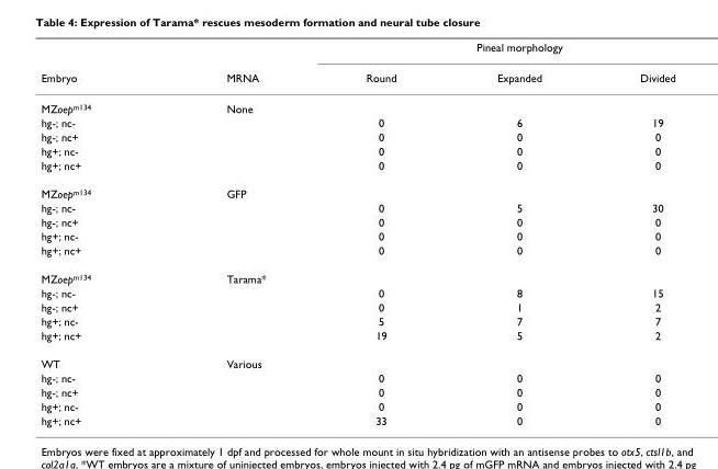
<table><thead><tr><td rowspan="2">Embryo</td><td rowspan="2">MRNA</td><td colspan="3">Pineal morphology</td></tr><tr><td>Round</td><td>Expanded</td><td>Divided</td></tr></thead><tbody><tr><td>MZoep<sup>m134</sup></td><td>None</td><td></td><td></td><td></td></tr><tr><td>hg-; nc-</td><td></td><td>0</td><td>6</td><td>19</td></tr><tr><td>hg-; nc+</td><td></td><td>0</td><td>0</td><td>0</td></tr><tr><td>hg+; nc-</td><td></td><td>0</td><td>0</td><td>0</td></tr><tr><td>hg+; nc+</td><td></td><td>0</td><td>0</td><td>0</td></tr><tr><td>MZoep<sup>m134</sup></td><td>GFP</td><td></td><td></td><td></td></tr><tr><td>hg-; nc-</td><td></td><td>0</td><td>5</td><td>30</td></tr><tr><td>hg-; nc+</td><td></td><td>0</td><td>0</td><td>0</td></tr><tr><td>hg+; nc-</td><td></td><td>0</td><td>0</td><td>0</td></tr><tr><td>hg+; nc+</td><td></td><td>0</td><td>0</td><td>0</td></tr><tr><td>MZoep<sup>m134</sup></td><td>Tarama*</td><td></td><td></td><td></td></tr><tr><td>hg-; nc-</td><td></td><td>0</td><td>8</td><td>15</td></tr><tr><td>hg-; nc+</td><td></td><td>0</td><td>1</td><td>2</td></tr><tr><td>hg+; nc-</td><td></td><td>5</td><td>7</td><td>7</td></tr><tr><td>hg+; nc+</td><td></td><td>19</td><td>5</td><td>2</td></tr><tr><td>WT</td><td>Various</td><td></td><td></td><td></td></tr><tr><td>hg-; nc-</td><td></td><td>0</td><td>0</td><td>0</td></tr><tr><td>hg-; nc+</td><td></td><td>0</td><td>0</td><td>0</td></tr><tr><td>hg+; nc-</td><td></td><td>0</td><td>0</td><td>0</td></tr><tr><td>hg+; nc+</td><td></td><td>33</td><td>0</td><td>0</td></tr></tbody></table>